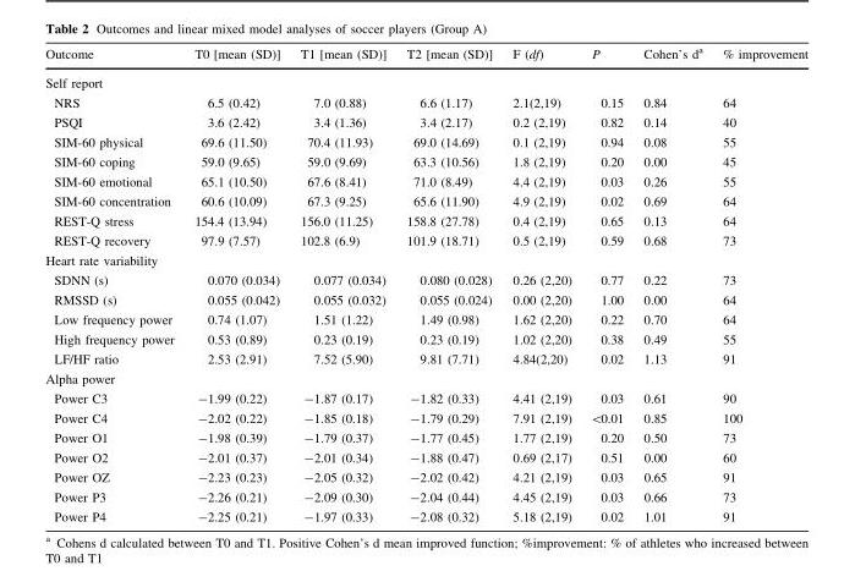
<table><thead><tr><td>Outcome</td><td>T0 [mean (SD)]</td><td>T1 [mean (SD)]</td><td>T2 [mean (SD)]</td><td>F (df)</td><td>P</td><td>Cohen’s d<sup>a</sup></td><td>% improvement</td></tr></thead><tbody><tr><td colspan="8">Self report</td></tr><tr><td>NRS</td><td>6.5 (0.42)</td><td>7.0 (0.88)</td><td>6.6 (1.17)</td><td>2.1(2,19)</td><td>0.15</td><td>0.84</td><td>64</td></tr><tr><td>PSQI</td><td>3.6 (2.42)</td><td>3.4 (1.36)</td><td>3.4 (2.17)</td><td>0.2 (2,19)</td><td>0.82</td><td>0.14</td><td>40</td></tr><tr><td>SIM-60 physical</td><td>69.6 (11.50)</td><td>70.4 (11.93)</td><td>69.0 (14.69)</td><td>0.1 (2,19)</td><td>0.94</td><td>0.08</td><td>55</td></tr><tr><td>SIM-60 coping</td><td>59.0 (9.65)</td><td>59.0 (9.69)</td><td>63.3 (10.56)</td><td>1.8 (2,19)</td><td>0.20</td><td>0.00</td><td>45</td></tr><tr><td>SIM-60 emotional</td><td>65.1 (10.50)</td><td>67.6 (8.41)</td><td>71.0 (8.49)</td><td>4.4 (2,19)</td><td>0.03</td><td>0.26</td><td>55</td></tr><tr><td>SIM-60 concentration</td><td>60.6 (10.09)</td><td>67.3 (9.25)</td><td>65.6 (11.90)</td><td>4.9 (2,19)</td><td>0.02</td><td>0.69</td><td>64</td></tr><tr><td>REST-Q stress</td><td>154.4 (13.94)</td><td>156.0 (11.25)</td><td>158.8 (27.78)</td><td>0.4 (2,19)</td><td>0.65</td><td>0.13</td><td>64</td></tr><tr><td>REST-Q recovery</td><td>97.9 (7.57)</td><td>102.8 (6.9)</td><td>101.9 (18.71)</td><td>0.5 (2,19)</td><td>0.59</td><td>0.68</td><td>73</td></tr><tr><td colspan="8">Heart rate variability</td></tr><tr><td>SDNN (s)</td><td>0.070 (0.034)</td><td>0.077 (0.034)</td><td>0.080 (0.028)</td><td>0.26 (2,20)</td><td>0.77</td><td>0.22</td><td>73</td></tr><tr><td>RMSSD (s)</td><td>0.055 (0.042)</td><td>0.055 (0.032)</td><td>0.055 (0.024)</td><td>0.00 (2,20)</td><td>1.00</td><td>0.00</td><td>64</td></tr><tr><td>Low frequency power</td><td>0.74 (1.07)</td><td>1.51 (1.22)</td><td>1.49 (0.98)</td><td>1.62 (2,20)</td><td>0.22</td><td>0.70</td><td>64</td></tr><tr><td>High frequency power</td><td>0.53 (0.89)</td><td>0.23 (0.19)</td><td>0.23 (0.19)</td><td>1.02 (2,20)</td><td>0.38</td><td>0.49</td><td>55</td></tr><tr><td>LF/HF ratio</td><td>2.53 (2.91)</td><td>7.52 (5.90)</td><td>9.81 (7.71)</td><td>4.84(2,20)</td><td>0.02</td><td>1.13</td><td>91</td></tr><tr><td colspan="8">Alpha power</td></tr><tr><td>Power C3</td><td>-1.99 (0.22)</td><td>-1.87 (0.17)</td><td>-1.82 (0.33)</td><td>4.41 (2,19)</td><td>0.03</td><td>0.61</td><td>90</td></tr><tr><td>Power C4</td><td>-2.02 (0.22)</td><td>-1.85 (0.18)</td><td>-1.79 (0.29)</td><td>7.91 (2,19)</td><td>&lt;0.01</td><td>0.85</td><td>100</td></tr><tr><td>Power O1</td><td>-1.98 (0.39)</td><td>-1.79 (0.37)</td><td>-1.77 (0.45)</td><td>1.77 (2,19)</td><td>0.20</td><td>0.50</td><td>73</td></tr><tr><td>Power O2</td><td>-2.01 (0.37)</td><td>-2.01 (0.34)</td><td>-1.88 (0.47)</td><td>0.69 (2,17)</td><td>0.51</td><td>0.00</td><td>60</td></tr><tr><td>Power OZ</td><td>-2.23 (0.23)</td><td>-2.05 (0.32)</td><td>-2.02 (0.42)</td><td>4.21 (2,19)</td><td>0.03</td><td>0.65</td><td>91</td></tr><tr><td>Power P3</td><td>-2.26 (0.21)</td><td>-2.09 (0.30)</td><td>-2.04 (0.44)</td><td>4.45 (2,19)</td><td>0.03</td><td>0.66</td><td>73</td></tr><tr><td>Power P4</td><td>-2.25 (0.21)</td><td>-1.97 (0.33)</td><td>-2.08 (0.32)</td><td>5.18 (2,19)</td><td>0.02</td><td>1.01</td><td>91</td></tr></tbody></table>